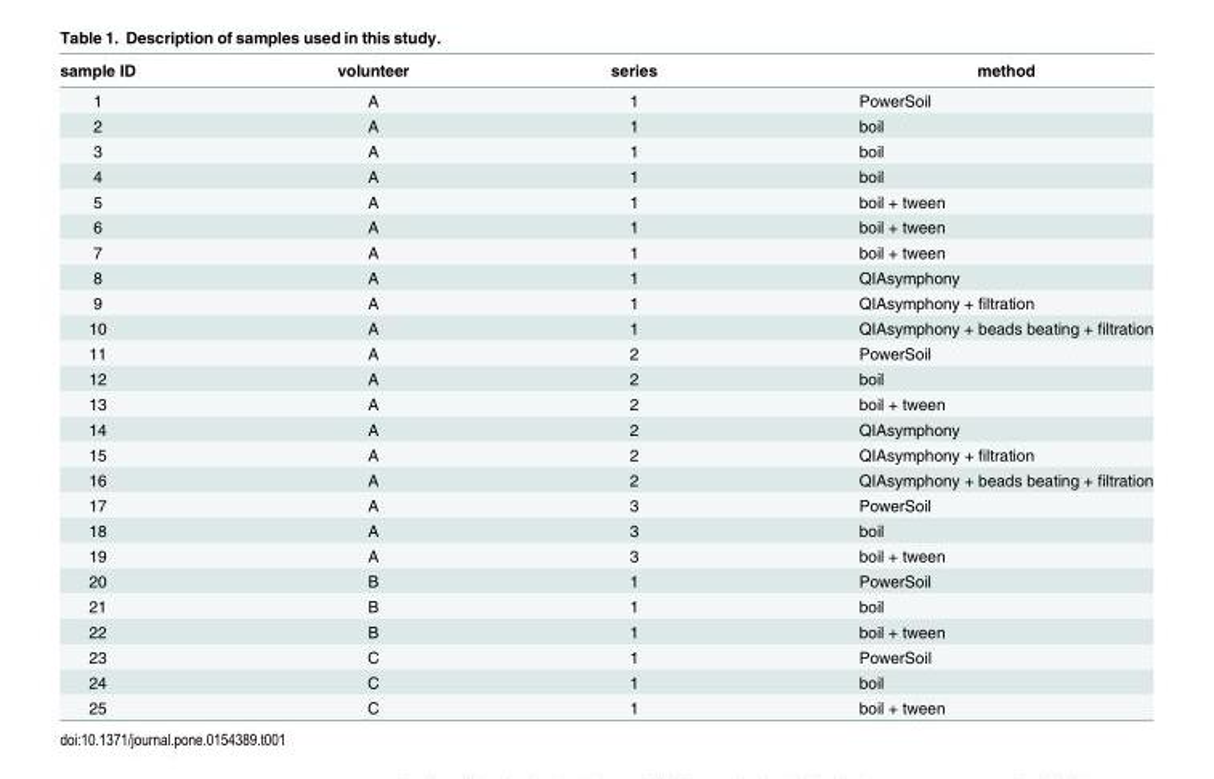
<table><thead><tr><td>sample ID</td><td>volunteer</td><td>series</td><td>method</td></tr></thead><tbody><tr><td>1</td><td>A</td><td>1</td><td>PowerSoil</td></tr><tr><td>2</td><td>A</td><td>1</td><td>boil</td></tr><tr><td>3</td><td>A</td><td>1</td><td>boil</td></tr><tr><td>4</td><td>A</td><td>1</td><td>boil</td></tr><tr><td>5</td><td>A</td><td>1</td><td>boil + tween</td></tr><tr><td>6</td><td>A</td><td>1</td><td>boil + tween</td></tr><tr><td>7</td><td>A</td><td>1</td><td>boil + tween</td></tr><tr><td>8</td><td>A</td><td>1</td><td>QIAsymphony</td></tr><tr><td>9</td><td>A</td><td>1</td><td>QIAsymphony + filtration</td></tr><tr><td>10</td><td>A</td><td>1</td><td>QIAsymphony + beads beating + filtration</td></tr><tr><td>11</td><td>A</td><td>2</td><td>PowerSoil</td></tr><tr><td>12</td><td>A</td><td>2</td><td>boil</td></tr><tr><td>13</td><td>A</td><td>2</td><td>boil + tween</td></tr><tr><td>14</td><td>A</td><td>2</td><td>QIAsymphony</td></tr><tr><td>15</td><td>A</td><td>2</td><td>QIAsymphony + filtration</td></tr><tr><td>16</td><td>A</td><td>2</td><td>QIAsymphony + beads beating + filtration</td></tr><tr><td>17</td><td>A</td><td>3</td><td>PowerSoil</td></tr><tr><td>18</td><td>A</td><td>3</td><td>boil</td></tr><tr><td>19</td><td>A</td><td>3</td><td>boil + tween</td></tr><tr><td>20</td><td>B</td><td>1</td><td>PowerSoil</td></tr><tr><td>21</td><td>B</td><td>1</td><td>boil</td></tr><tr><td>22</td><td>B</td><td>1</td><td>boil + tween</td></tr><tr><td>23</td><td>C</td><td>1</td><td>PowerSoil</td></tr><tr><td>24</td><td>C</td><td>1</td><td>boil</td></tr><tr><td>25</td><td>C</td><td>1</td><td>boil + tween</td></tr></tbody></table>